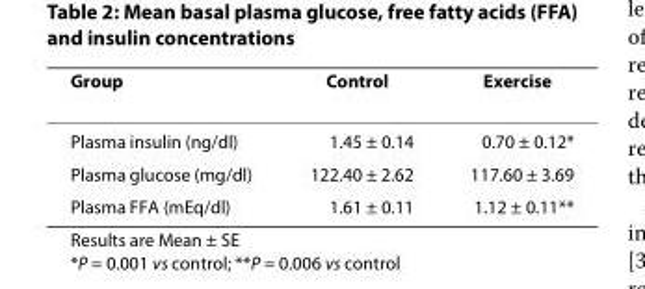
<table><thead><tr><td>Group</td><td>Control</td><td>Exercise</td></tr></thead><tbody><tr><td>Plasma insulin (ng/dl)</td><td>1.45 ± 0.14</td><td>0.70 ± 0.12*</td></tr><tr><td>Plasma glucose (mg/dl)</td><td>122.40 ± 2.62</td><td>117.60 ± 3.69</td></tr><tr><td>Plasma FFA (mEq/dl)</td><td>1.61 ± 0.11</td><td>1.12 ± 0.11**</td></tr></tbody></table>